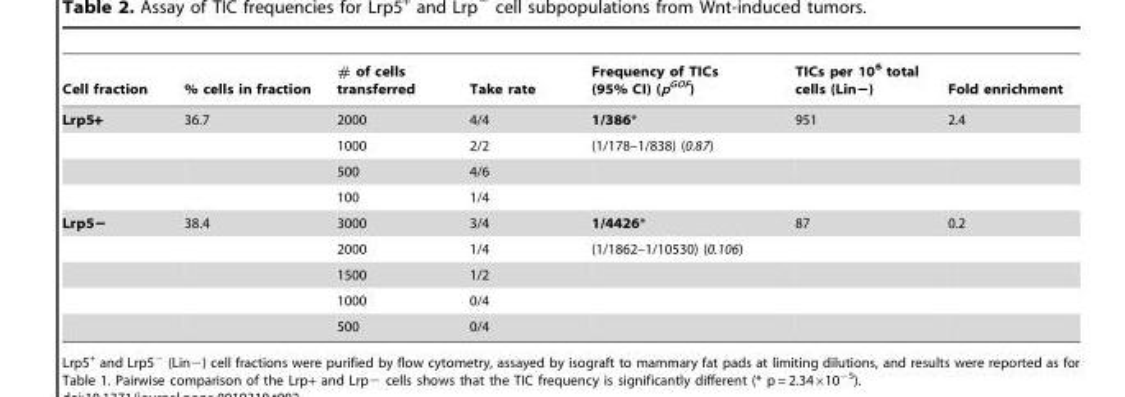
<table><thead><tr><td>Cell fraction</td><td>% cells in fraction</td><td># of cells transferred</td><td>Take rate</td><td>Frequency of TICs (95% CI) (p<sup>GOF</sup>)</td><td>TICs per 10<sup>6</sup> total cells (Lin−)</td><td>Fold enrichment</td></tr></thead><tbody><tr><td rowspan="4">Lrp5+</td><td>36.7</td><td>2000</td><td>4/4</td><td>1/386*</td><td>951</td><td>2.4</td></tr><tr><td></td><td>1000</td><td>2/2</td><td>(1/178–1/838) (0.87)</td><td></td><td></td></tr><tr><td></td><td>500</td><td>4/6</td><td></td><td></td><td></td></tr><tr><td></td><td>100</td><td>1/4</td><td></td><td></td><td></td></tr><tr><td rowspan="5">Lrp5−</td><td>38.4</td><td>3000</td><td>3/4</td><td>1/4426*</td><td>87</td><td>0.2</td></tr><tr><td></td><td>2000</td><td>1/4</td><td>(1/1862–1/10530) (0.106)</td><td></td><td></td></tr><tr><td></td><td>1500</td><td>1/2</td><td></td><td></td><td></td></tr><tr><td></td><td>1000</td><td>0/4</td><td></td><td></td><td></td></tr><tr><td></td><td>500</td><td>0/4</td><td></td><td></td><td></td></tr></tbody></table>